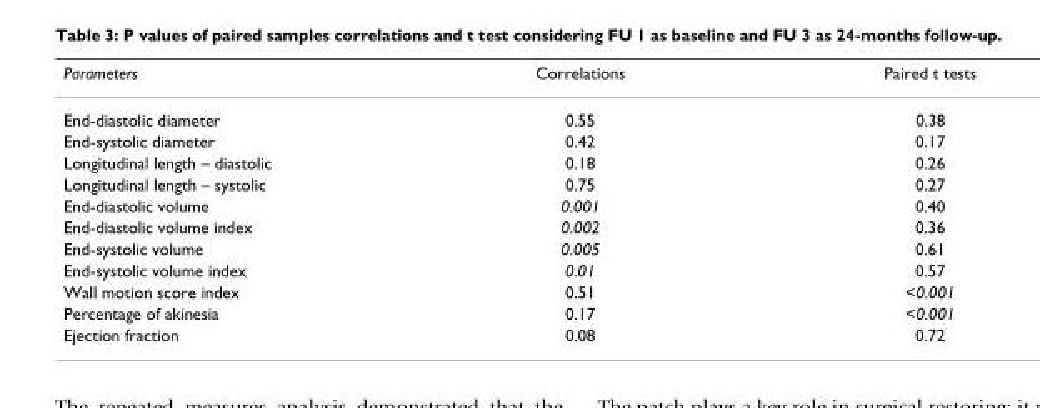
<table><thead><tr><td>Parameters</td><td>Correlations</td><td>Paired t tests</td></tr></thead><tbody><tr><td>End-diastolic diameter</td><td>0.55</td><td>0.38</td></tr><tr><td>End-systolic diameter</td><td>0.42</td><td>0.17</td></tr><tr><td>Longitudinal length – diastolic</td><td>0.18</td><td>0.26</td></tr><tr><td>Longitudinal length – systolic</td><td>0.75</td><td>0.27</td></tr><tr><td>End-diastolic volume</td><td>0.001</td><td>0.40</td></tr><tr><td>End-diastolic volume index</td><td>0.002</td><td>0.36</td></tr><tr><td>End-systolic volume</td><td>0.005</td><td>0.61</td></tr><tr><td>End-systolic volume index</td><td>0.01</td><td>0.57</td></tr><tr><td>Wall motion score index</td><td>0.51</td><td>&lt;0.001</td></tr><tr><td>Percentage of akinesia</td><td>0.17</td><td>&lt;0.001</td></tr><tr><td>Ejection fraction</td><td>0.08</td><td>0.72</td></tr></tbody></table>